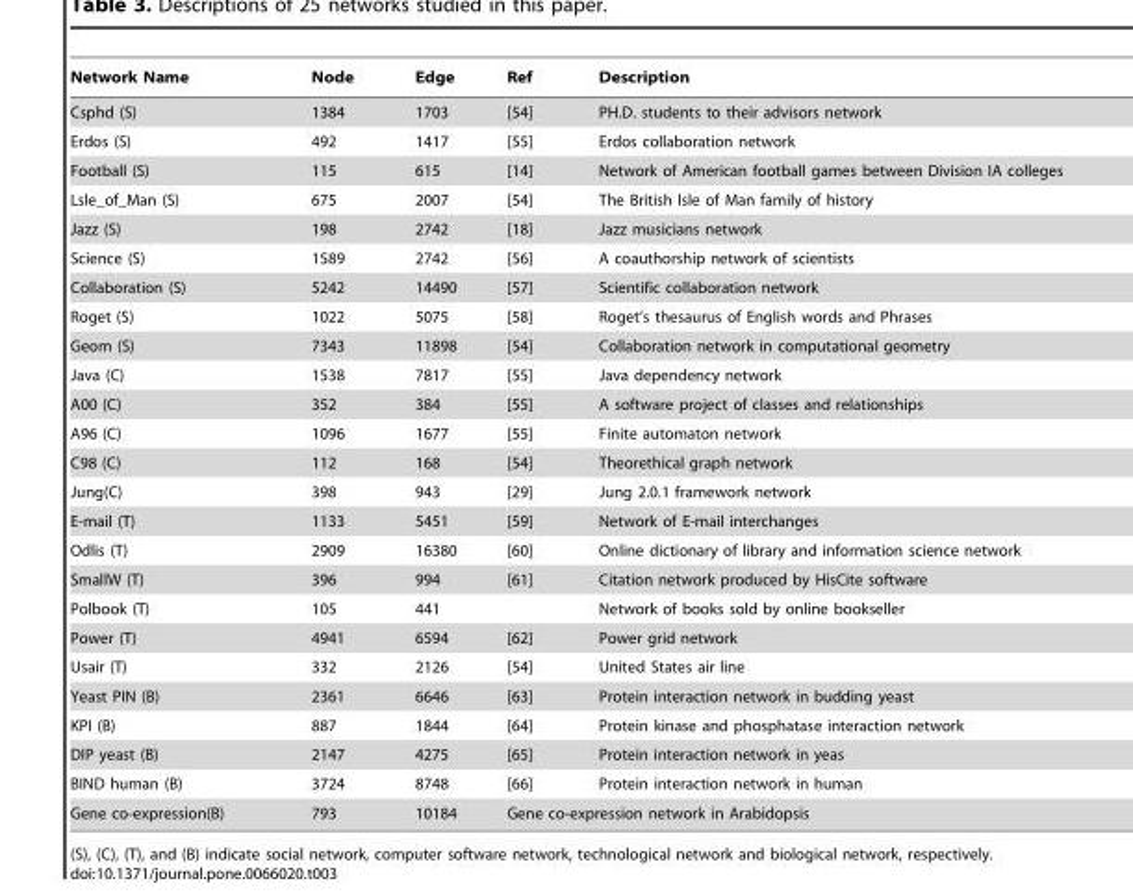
<table><thead><tr><td>Network Name</td><td>Node</td><td>Edge</td><td>Ref</td><td>Description</td></tr></thead><tbody><tr><td>Csphd (S)</td><td>1384</td><td>1703</td><td>[54]</td><td>PH.D. students to their advisors network</td></tr><tr><td>Erdos (S)</td><td>492</td><td>1417</td><td>[55]</td><td>Erdos collaboration network</td></tr><tr><td>Football (S)</td><td>115</td><td>615</td><td>[14]</td><td>Network of American football games between Division IA colleges</td></tr><tr><td>Lsle_of_Man (S)</td><td>675</td><td>2007</td><td>[54]</td><td>The British lsle of Man family of history</td></tr><tr><td>Jazz (S)</td><td>198</td><td>2742</td><td>[18]</td><td>Jazz musicians network</td></tr><tr><td>Science (S)</td><td>1589</td><td>2742</td><td>[56]</td><td>A coauthorship network of scientists</td></tr><tr><td>Collaboration (S)</td><td>5242</td><td>14490</td><td>[57]</td><td>Scientific collaboration network</td></tr><tr><td>Roget (S)</td><td>1022</td><td>5075</td><td>[58]</td><td>Roget’s thesaurus of English words and Phrases</td></tr><tr><td>Geom (S)</td><td>7343</td><td>11898</td><td>[54]</td><td>Collaboration network in computational geometry</td></tr><tr><td>Java (C)</td><td>1538</td><td>7817</td><td>[55]</td><td>Java dependency network</td></tr><tr><td>A00 (C)</td><td>352</td><td>384</td><td>[55]</td><td>A software project of classes and relationships</td></tr><tr><td>A96 (C)</td><td>1096</td><td>1677</td><td>[55]</td><td>Finite automaton network</td></tr><tr><td>C98 (C)</td><td>112</td><td>168</td><td>[54]</td><td>Theorethical graph network</td></tr><tr><td>Jung(C)</td><td>398</td><td>943</td><td>[29]</td><td>Jung 2.0.1 framework network</td></tr><tr><td>E-mail (T)</td><td>1133</td><td>5451</td><td>[59]</td><td>Network of E-mail interchanges</td></tr><tr><td>Odlis (T)</td><td>2909</td><td>16380</td><td>[60]</td><td>Online dictionary of library and information science network</td></tr><tr><td>SmallW (T)</td><td>396</td><td>994</td><td>[61]</td><td>Citation network produced by HisCite software</td></tr><tr><td>Polbook (T)</td><td>105</td><td>441</td><td></td><td>Network of books sold by online bookseller</td></tr><tr><td>Power (T)</td><td>4941</td><td>6594</td><td>[62]</td><td>Power grid network</td></tr><tr><td>Usair (T)</td><td>332</td><td>2126</td><td>[54]</td><td>United States air line</td></tr><tr><td>Yeast PIN (B)</td><td>2361</td><td>6646</td><td>[63]</td><td>Protein interaction network in budding yeast</td></tr><tr><td>KPI (B)</td><td>887</td><td>1844</td><td>[64]</td><td>Protein kinase and phosphatase interaction network</td></tr><tr><td>DIP yeast (B)</td><td>2147</td><td>4275</td><td>[65]</td><td>Protein interaction network in yeas</td></tr><tr><td>BIND human (B)</td><td>3724</td><td>8748</td><td>[66]</td><td>Protein interaction network in human</td></tr><tr><td>Gene co-expression(B)</td><td>793</td><td>10184</td><td colspan="2">Gene co-expression network in Arabidopsis</td></tr></tbody></table>